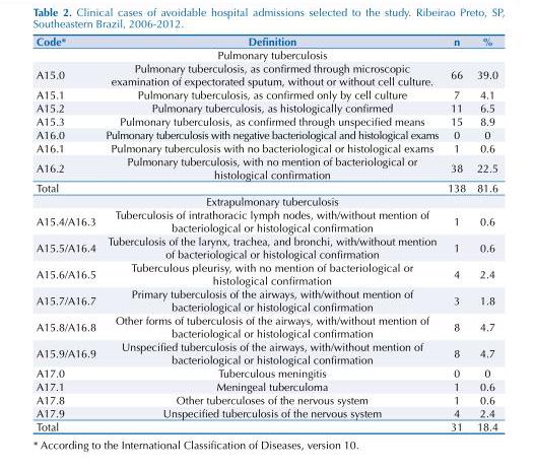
<table><thead><tr><td>Code*</td><td>Definition</td><td>n</td><td>%</td></tr></thead><tbody><tr><td></td><td>Pulmonary tuberculosis</td><td></td><td></td></tr><tr><td>A15.0</td><td>Pulmonary tuberculosis, as confirmed through microscopic examination of expectorated sputum, without or without cell culture.</td><td>66</td><td>39.0</td></tr><tr><td>A15.1</td><td>Pulmonary tuberculosis, as confirmed only by cell culture</td><td>7</td><td>4.1</td></tr><tr><td>A15.2</td><td>Pulmonary tuberculosis, as histologically confirmed</td><td>11</td><td>6.5</td></tr><tr><td>A15.3</td><td>Pulmonary tuberculosis, as confirmed through unspecified means</td><td>15</td><td>8.9</td></tr><tr><td>A16.0</td><td>Pulmonary tuberculosis with negative bacteriological and histological exams</td><td>0</td><td>0</td></tr><tr><td>A16.1</td><td>Pulmonary tuberculosis with no bacteriological or histological exams</td><td>1</td><td>0.6</td></tr><tr><td>A16.2</td><td>Pulmonary tuberculosis, with no mention of bacteriological or histological confirmation</td><td>38</td><td>22.5</td></tr><tr><td rowspan="2">Total</td><td></td><td>138</td><td>81.6</td></tr><tr><td>Extrapulmonary tuberculosis</td><td></td><td></td></tr><tr><td>A15.4/A16.3</td><td>Tuberculosis of intrathoracic lymph nodes, with/without mention of bacteriological or histological confirmation</td><td>1</td><td>0.6</td></tr><tr><td>A15.5/A16.4</td><td>Tuberculosis of the larynx, trachea, and bronchi, with/without mention of bacteriological or histological confirmation</td><td>1</td><td>0.6</td></tr><tr><td>A15.6/A16.5</td><td>Tuberculous pleurisy, with no mention of bacteriological or histological confirmation</td><td>4</td><td>2.4</td></tr><tr><td>A15.7/A16.7</td><td>Primary tuberculosis of the airways, with/without mention of bacteriological or histological confirmation</td><td>3</td><td>1.8</td></tr><tr><td>A15.8/A16.8</td><td>Other forms of tuberculosis of the airways, with/without mention of bacteriological or histological confirmation</td><td>8</td><td>4.7</td></tr><tr><td>A15.9/A16.9</td><td>Unspecified tuberculosis of the airways, with/without mention of bacteriological or histological confirmation</td><td>8</td><td>4.7</td></tr><tr><td>A17.0</td><td>Tuberculous meningitis</td><td>0</td><td>0</td></tr><tr><td>A17.1</td><td>Meningeal tuberculoma</td><td>1</td><td>0.6</td></tr><tr><td>A17.8</td><td>Other tuberculoses of the nervous system</td><td>1</td><td>0.6</td></tr><tr><td>A17.9</td><td>Unspecified tuberculosis of the nervous system</td><td>4</td><td>2.4</td></tr><tr><td>Total</td><td></td><td>31</td><td>18.4</td></tr></tbody></table>